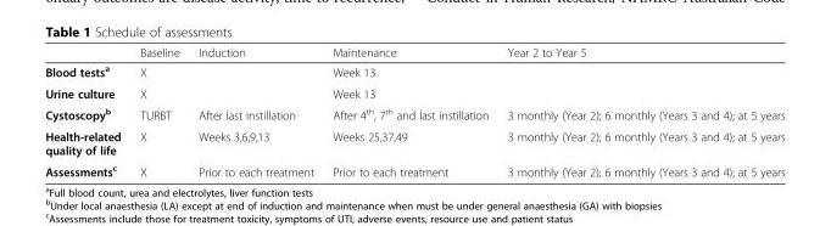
<table><thead><tr><td></td><td>Baseline</td><td>Induction</td><td>Maintenance</td><td>Year 2 to Year 5</td></tr></thead><tbody><tr><td>Blood tests<sup>a</sup></td><td>X</td><td></td><td>Week 13</td><td></td></tr><tr><td>Urine culture</td><td>X</td><td></td><td>Week 13</td><td></td></tr><tr><td>Cystoscopy<sup>b</sup></td><td>TURBT</td><td>After last instillation</td><td>After 4<sup>th</sup>, 7<sup>th</sup> and last instillation</td><td>3 monthly (Year 2); 6 monthly (Years 3 and 4); at 5 years</td></tr><tr><td>Health-related quality of life</td><td>X</td><td>Weeks 3,6,9,13</td><td>Weeks 25,37,49</td><td>3 monthly (Year 2); 6 monthly (Years 3 and 4); at 5 years</td></tr><tr><td>Assessments<sup>c</sup></td><td>X</td><td>Prior to each treatment</td><td>Prior to each treatment</td><td>3 monthly (Year 2); 6 monthly (Years 3 and 4); at 5 years</td></tr></tbody></table>